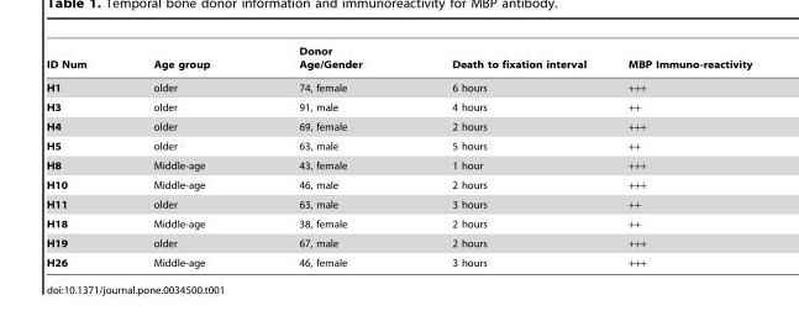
<table><thead><tr><td>ID Num</td><td>Age group</td><td>Donor Age/Gender</td><td>Death to fixation interval</td><td>MBP Immuno-reactivity</td></tr></thead><tbody><tr><td>H1</td><td>older</td><td>74, female</td><td>6 hours</td><td>+++</td></tr><tr><td>H3</td><td>older</td><td>91, male</td><td>4 hours</td><td>++</td></tr><tr><td>H4</td><td>older</td><td>69, female</td><td>2 hours</td><td>+++</td></tr><tr><td>H5</td><td>older</td><td>63, male</td><td>5 hours</td><td>++</td></tr><tr><td>H8</td><td>Middle-age</td><td>43, female</td><td>1 hour</td><td>+++</td></tr><tr><td>H10</td><td>Middle-age</td><td>46, male</td><td>2 hours</td><td>+++</td></tr><tr><td>H11</td><td>older</td><td>63, male</td><td>3 hours</td><td>++</td></tr><tr><td>H18</td><td>Middle-age</td><td>38, female</td><td>2 hours</td><td>++</td></tr><tr><td>H19</td><td>older</td><td>67, male</td><td>2 hours</td><td>+++</td></tr><tr><td>H26</td><td>Middle-age</td><td>46, female</td><td>3 hours</td><td>+++</td></tr></tbody></table>